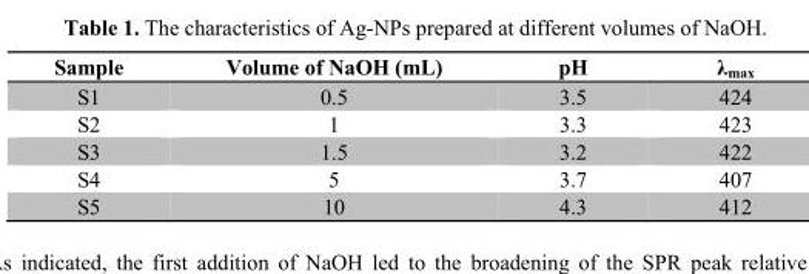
<table><thead><tr><td>Sample</td><td>Volume of NaOH (mL)</td><td>pH</td><td>λ<sub>max</sub></td></tr></thead><tbody><tr><td>S1</td><td>0.5</td><td>3.5</td><td>424</td></tr><tr><td>S2</td><td>1</td><td>3.3</td><td>423</td></tr><tr><td>S3</td><td>1.5</td><td>3.2</td><td>422</td></tr><tr><td>S4</td><td>5</td><td>3.7</td><td>407</td></tr><tr><td>S5</td><td>10</td><td>4.3</td><td>412</td></tr></tbody></table>